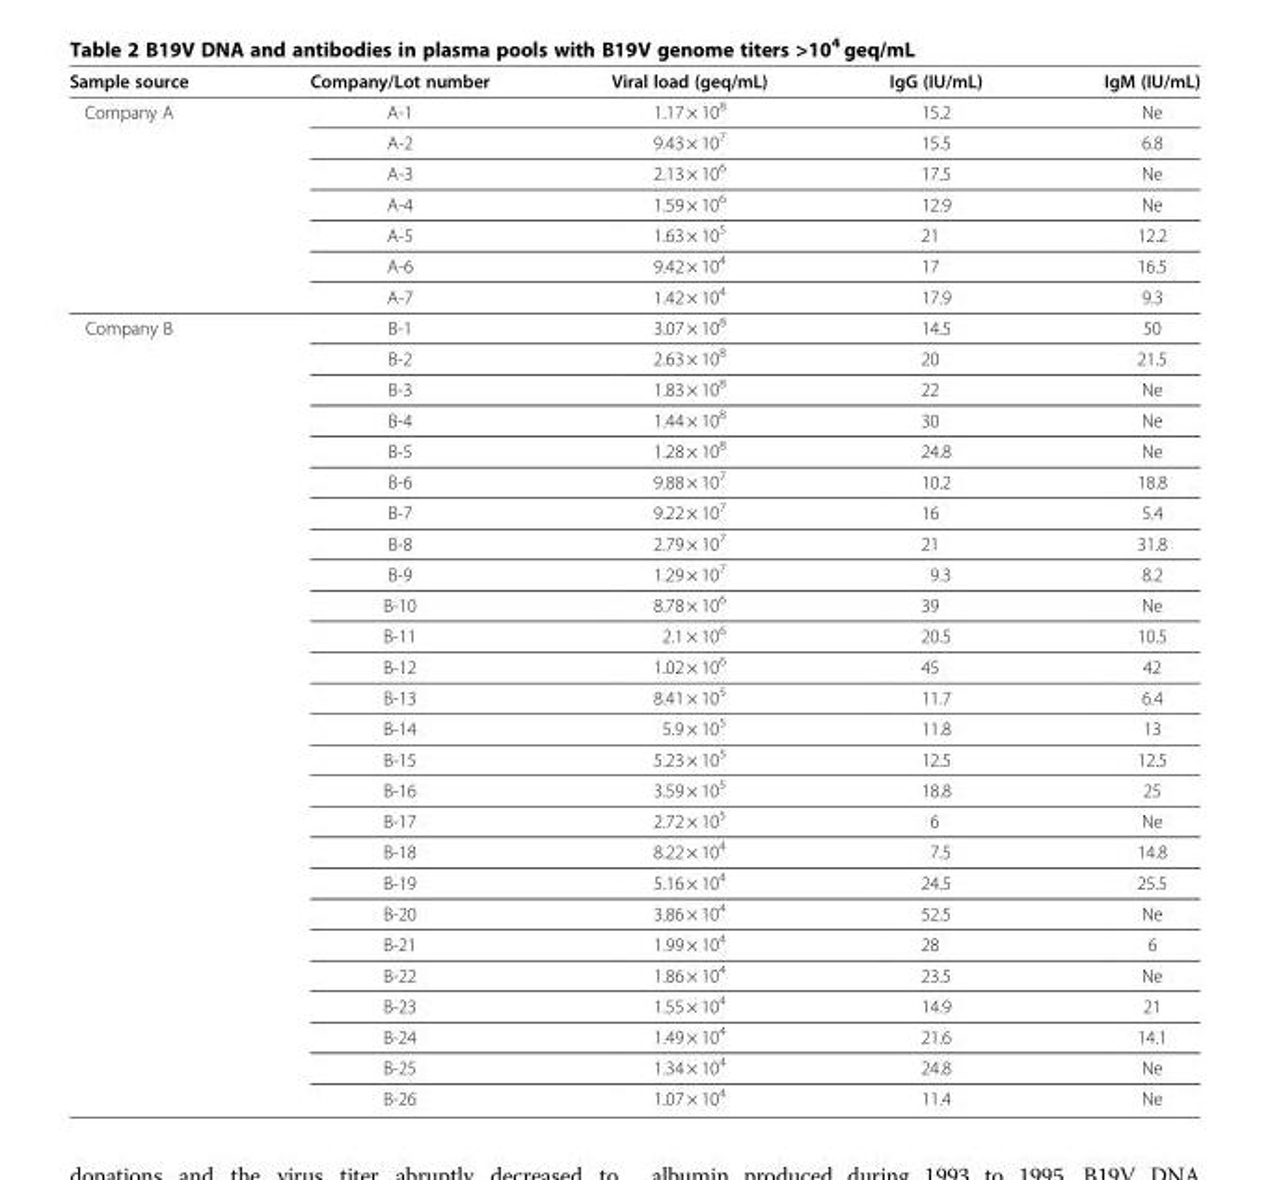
<table><thead><tr><td>Sample source</td><td>Company/Lot number</td><td>Viral load (geq/mL)</td><td>IgG (IU/mL)</td><td>IgM (IU/mL)</td></tr></thead><tbody><tr><td rowspan="7">Company A</td><td>A-1</td><td>1.17 × 10<sup>8</sup></td><td>15.2</td><td>Ne</td></tr><tr><td>A-2</td><td>9.43 × 10<sup>7</sup></td><td>15.5</td><td>6.8</td></tr><tr><td>A-3</td><td>2.13 × 10<sup>6</sup></td><td>17.5</td><td>Ne</td></tr><tr><td>A-4</td><td>1.59 × 10<sup>6</sup></td><td>12.9</td><td>Ne</td></tr><tr><td>A-5</td><td>1.63 × 10<sup>5</sup></td><td>21</td><td>12.2</td></tr><tr><td>A-6</td><td>9.42 × 10<sup>4</sup></td><td>17</td><td>16.5</td></tr><tr><td>A-7</td><td>1.42 × 10<sup>4</sup></td><td>17.9</td><td>9.3</td></tr><tr><td rowspan="26">Company B</td><td>B-1</td><td>3.07 × 10<sup>8</sup></td><td>14.5</td><td>50</td></tr><tr><td>B-2</td><td>2.63 × 10<sup>8</sup></td><td>20</td><td>21.5</td></tr><tr><td>B-3</td><td>1.83 × 10<sup>8</sup></td><td>22</td><td>Ne</td></tr><tr><td>B-4</td><td>1.44 × 10<sup>8</sup></td><td>30</td><td>Ne</td></tr><tr><td>B-5</td><td>1.28 × 10<sup>8</sup></td><td>24.8</td><td>Ne</td></tr><tr><td>B-6</td><td>9.88 × 10<sup>7</sup></td><td>10.2</td><td>18.8</td></tr><tr><td>B-7</td><td>9.22 × 10<sup>7</sup></td><td>16</td><td>5.4</td></tr><tr><td>B-8</td><td>2.79 × 10<sup>7</sup></td><td>21</td><td>31.8</td></tr><tr><td>B-9</td><td>1.29 × 10<sup>7</sup></td><td>9.3</td><td>8.2</td></tr><tr><td>B-10</td><td>8.78 × 10<sup>6</sup></td><td>39</td><td>Ne</td></tr><tr><td>B-11</td><td>2.1 × 10<sup>6</sup></td><td>20.5</td><td>10.5</td></tr><tr><td>B-12</td><td>1.02 × 10<sup>6</sup></td><td>45</td><td>42</td></tr><tr><td>B-13</td><td>8.41 × 10<sup>5</sup></td><td>11.7</td><td>6.4</td></tr><tr><td>B-14</td><td>5.9 × 10<sup>5</sup></td><td>11.8</td><td>13</td></tr><tr><td>B-15</td><td>5.23 × 10<sup>5</sup></td><td>12.5</td><td>12.5</td></tr><tr><td>B-16</td><td>3.59 × 10<sup>5</sup></td><td>18.8</td><td>25</td></tr><tr><td>B-17</td><td>2.72 × 10<sup>5</sup></td><td>6</td><td>Ne</td></tr><tr><td>B-18</td><td>8.22 × 10<sup>4</sup></td><td>7.5</td><td>14.8</td></tr><tr><td>B-19</td><td>5.16 × 10<sup>4</sup></td><td>24.5</td><td>25.5</td></tr><tr><td>B-20</td><td>3.86 × 10<sup>4</sup></td><td>52.5</td><td>Ne</td></tr><tr><td>B-21</td><td>1.99 × 10<sup>4</sup></td><td>28</td><td>6</td></tr><tr><td>B-22</td><td>1.86 × 10<sup>4</sup></td><td>23.5</td><td>Ne</td></tr><tr><td>B-23</td><td>1.55 × 10<sup>4</sup></td><td>14.9</td><td>21</td></tr><tr><td>B-24</td><td>1.49 × 10<sup>4</sup></td><td>21.6</td><td>14.1</td></tr><tr><td>B-25</td><td>1.34 × 10<sup>4</sup></td><td>24.8</td><td>Ne</td></tr><tr><td>B-26</td><td>1.07 × 10<sup>4</sup></td><td>11.4</td><td>Ne</td></tr></tbody></table>